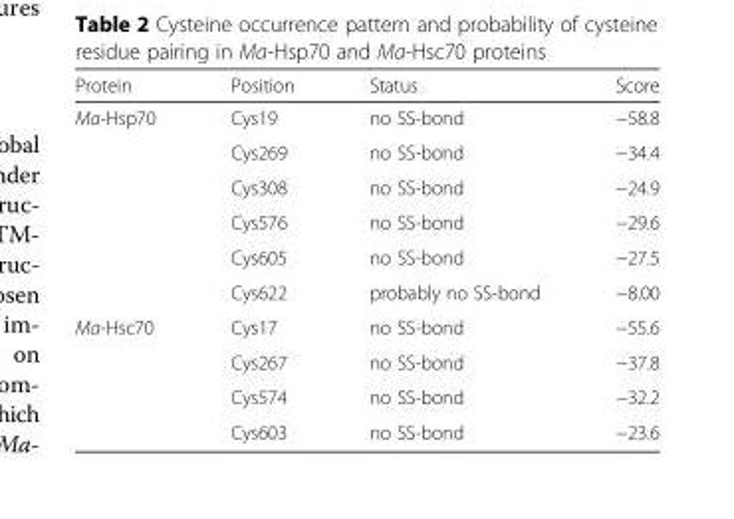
<table><thead><tr><td>Protein</td><td>Position</td><td>Status</td><td>Score</td></tr></thead><tbody><tr><td rowspan="6">Ma-Hsp70</td><td>Cys19</td><td>no SS-bond</td><td>−58.8</td></tr><tr><td>Cys269</td><td>no SS-bond</td><td>−34.4</td></tr><tr><td>Cys308</td><td>no SS-bond</td><td>−24.9</td></tr><tr><td>Cys576</td><td>no SS-bond</td><td>−29.6</td></tr><tr><td>Cys605</td><td>no SS-bond</td><td>−27.5</td></tr><tr><td>Cys622</td><td>probably no SS-bond</td><td>−8.00</td></tr><tr><td rowspan="4">Ma-Hsc70</td><td>Cys17</td><td>no SS-bond</td><td>−55.6</td></tr><tr><td>Cys267</td><td>no SS-bond</td><td>−37.8</td></tr><tr><td>Cys574</td><td>no SS-bond</td><td>−32.2</td></tr><tr><td>Cys603</td><td>no SS-bond</td><td>−23.6</td></tr></tbody></table>